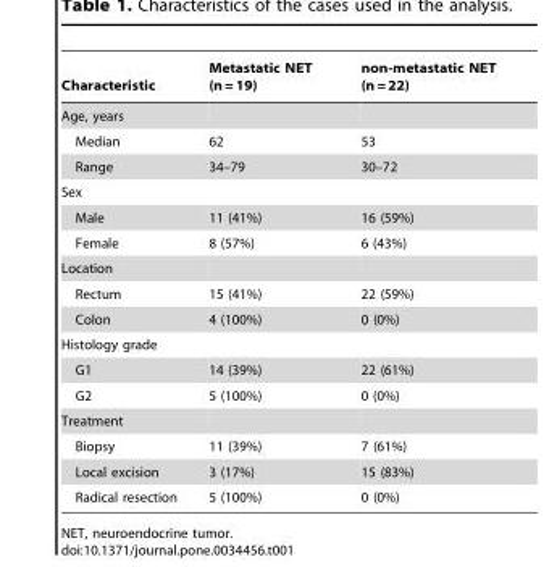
<table><thead><tr><td>Characteristic</td><td>Metastatic NET (n = 19)</td><td>non-metastatic NET (n = 22)</td></tr></thead><tbody><tr><td colspan="3">Age, years</td></tr><tr><td>Median</td><td>62</td><td>53</td></tr><tr><td>Range</td><td>34–79</td><td>30–72</td></tr><tr><td colspan="3">Sex</td></tr><tr><td>Male</td><td>11 (41%)</td><td>16 (59%)</td></tr><tr><td>Female</td><td>8 (57%)</td><td>6 (43%)</td></tr><tr><td colspan="3">Location</td></tr><tr><td>Rectum</td><td>15 (41%)</td><td>22 (59%)</td></tr><tr><td>Colon</td><td>4 (100%)</td><td>0 (0%)</td></tr><tr><td colspan="3">Histology grade</td></tr><tr><td>G1</td><td>14 (39%)</td><td>22 (61%)</td></tr><tr><td>G2</td><td>5 (100%)</td><td>0 (0%)</td></tr><tr><td colspan="3">Treatment</td></tr><tr><td>Biopsy</td><td>11 (39%)</td><td>7 (61%)</td></tr><tr><td>Local excision</td><td>3 (17%)</td><td>15 (83%)</td></tr><tr><td>Radical resection</td><td>5 (100%)</td><td>0 (0%)</td></tr></tbody></table>